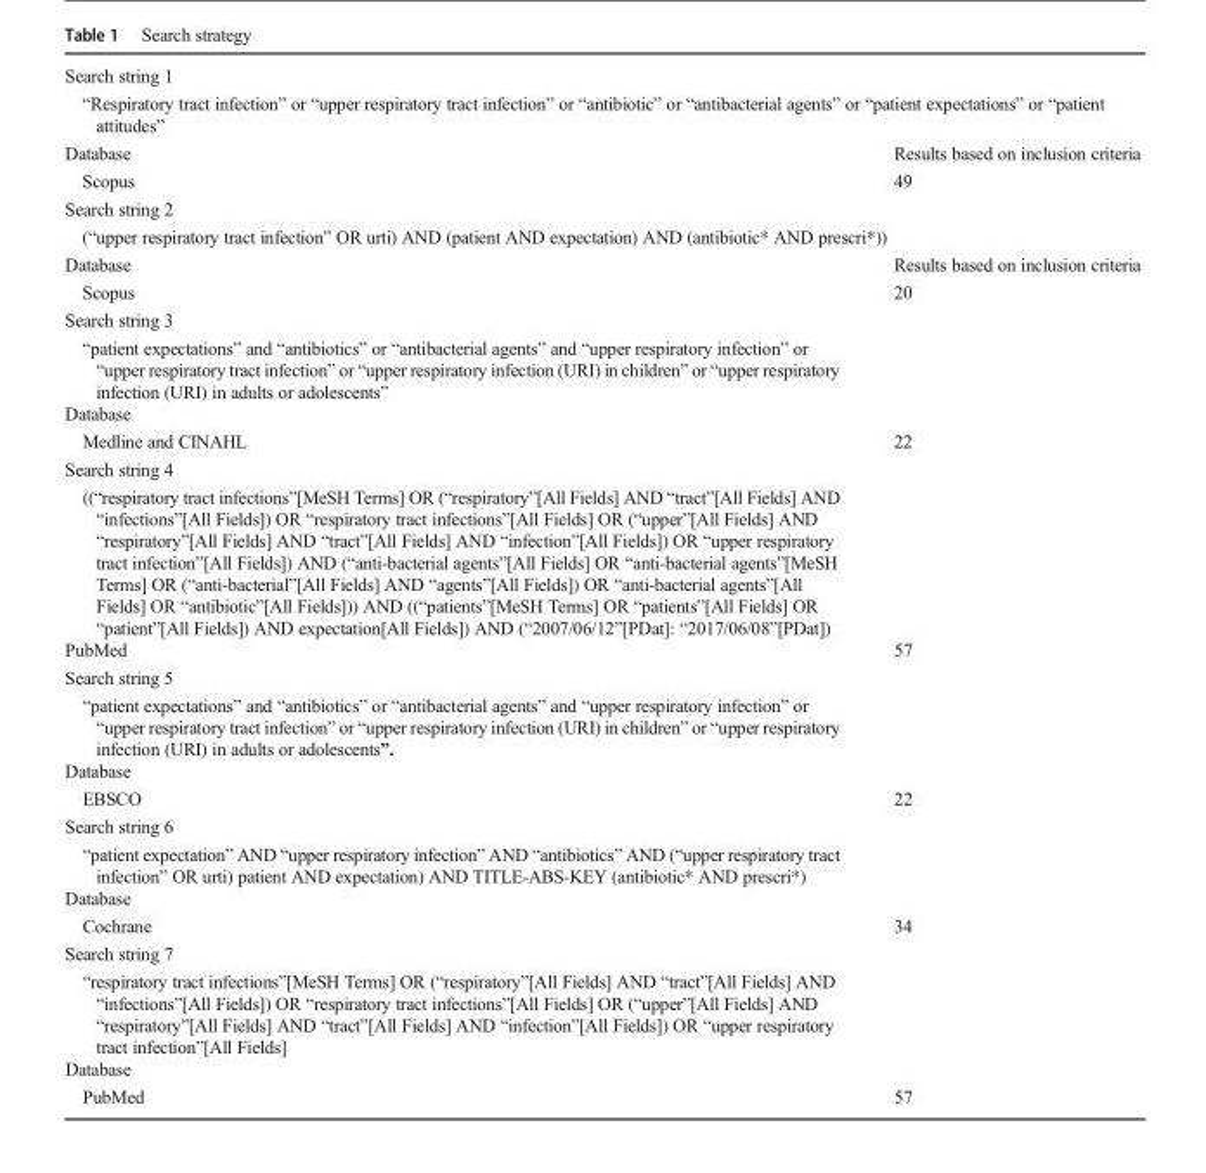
<table><tbody><tr><td colspan="2">Search string 1</td></tr><tr><td colspan="2">“Respiratory tract infection” or “upper respiratory tract infection” or “antibiotic” or “antibacterial agents” or “patient expectations” or “patient attitudes”</td></tr><tr><td>Database</td><td>Results based on inclusion criteria</td></tr><tr><td>Scopus</td><td>49</td></tr><tr><td colspan="2">Search string 2</td></tr><tr><td colspan="2">(“upper respiratory tract infection” OR urti) AND (patient AND expectation) AND (antibiotic* AND prescri*))</td></tr><tr><td>Database</td><td>Results based on inclusion criteria</td></tr><tr><td>Scopus</td><td>20</td></tr><tr><td colspan="2">Search string 3</td></tr><tr><td colspan="2">“patient expectations” and “antibiotics” or “antibacterial agents” and “upper respiratory infection” or “upper respiratory tract infection” or “upper respiratory infection (URI) in children” or “upper respiratory infection (URI) in adults or adolescents”</td></tr><tr><td colspan="2">Database</td></tr><tr><td>Medline and CINAHL</td><td>22</td></tr><tr><td colspan="2">Search string 4</td></tr><tr><td colspan="2">((“respiratory tract infections”[MeSH Terms] OR (“respiratory”[All Fields] AND “tract”[All Fields] AND “infections”[All Fields]) OR “respiratory tract infections”[All Fields] OR (“upper”[All Fields] AND “respiratory”[All Fields] AND “tract”[All Fields] AND “infection”[All Fields]) OR “upper respiratory tract infection”[All Fields]) AND (“anti-bacterial agents”[All Fields] OR “anti-bacterial agents”[MeSH Terms] OR (“anti-bacterial”[All Fields] AND “agents”[All Fields]) OR “anti-bacterial agents”[All Fields] OR “antibiotic”[All Fields])) AND ((“patients”[MeSH Terms] OR “patients”[All Fields] OR “patient”[All Fields]) AND expectation[All Fields]) AND (“2007/06/12”[PDat]: “2017/06/08”[PDat])</td></tr><tr><td>PubMed</td><td>57</td></tr><tr><td colspan="2">Search string 5</td></tr><tr><td colspan="2">“patient expectations” and “antibiotics” or “antibacterial agents” and “upper respiratory infection” or “upper respiratory tract infection” or “upper respiratory infection (URI) in children” or “upper respiratory infection (URI) in adults or adolescents”.</td></tr><tr><td colspan="2">Database</td></tr><tr><td>EBSCO</td><td>22</td></tr><tr><td colspan="2">Search string 6</td></tr><tr><td colspan="2">“patient expectation” AND “upper respiratory infection” AND “antibiotics” AND (“upper respiratory tract infection” OR urti) patient AND expectation) AND TITLE-ABS-KEY (antibiotic* AND prescri*)</td></tr><tr><td colspan="2">Database</td></tr><tr><td>Cochrane</td><td>34</td></tr><tr><td colspan="2">Search string 7</td></tr><tr><td colspan="2">“respiratory tract infections”[MeSH Terms] OR (“respiratory”[All Fields] AND “tract”[All Fields] AND “infections”[All Fields]) OR “respiratory tract infections”[All Fields] OR (“upper”[All Fields] AND “respiratory”[All Fields] AND “tract”[All Fields] AND “infection”[All Fields]) OR “upper respiratory tract infection”[All Fields]</td></tr><tr><td colspan="2">Database</td></tr><tr><td>PubMed</td><td>57</td></tr></tbody></table>